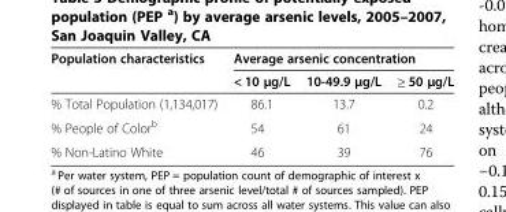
<table><thead><tr><td rowspan="2">Population characteristics</td><td colspan="3">Average arsenic concentration</td></tr><tr><td>&lt; 10 μg/L</td><td>10-49.9 μg/L</td><td>≥ 50 μg/L</td></tr></thead><tbody><tr><td>% Total Population (1,134,017)</td><td>86.1</td><td>13.7</td><td>0.2</td></tr><tr><td>% People of Color<sup>b</sup></td><td>54</td><td>61</td><td>24</td></tr><tr><td>% Non-Latino White</td><td>46</td><td>39</td><td>76</td></tr></tbody></table>